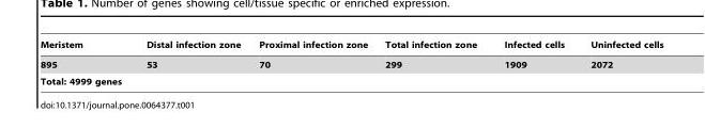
<table><thead><tr><td>Meristem</td><td>Distal infection zone</td><td>Proximal infection zone</td><td>Total infection zone</td><td>Infected cells</td><td>Uninfected cells</td></tr></thead><tbody><tr><td>895</td><td>53</td><td>70</td><td>299</td><td>1909</td><td>2072</td></tr><tr><td>Total: 4999 genes</td><td></td><td></td><td></td><td></td><td></td></tr></tbody></table>